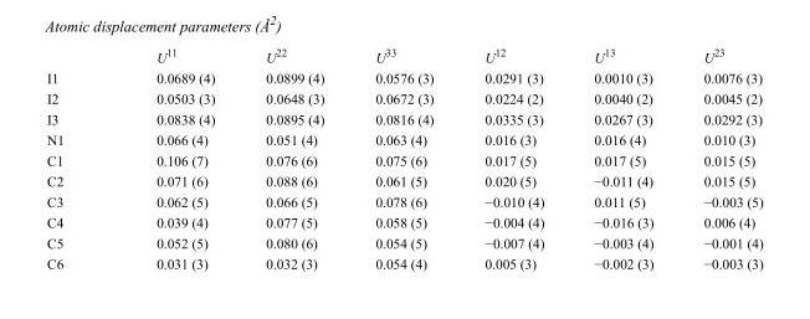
<table><thead><tr><td></td><td>U<sup>11</sup></td><td>U<sup>22</sup></td><td>U<sup>33</sup></td><td>U<sup>12</sup></td><td>U<sup>13</sup></td><td>U<sup>23</sup></td></tr></thead><tbody><tr><td>I1</td><td>0.0689 (4)</td><td>0.0899 (4)</td><td>0.0576 (3)</td><td>0.0291 (3)</td><td>0.0010 (3)</td><td>0.0076 (3)</td></tr><tr><td>I2</td><td>0.0503 (3)</td><td>0.0648 (3)</td><td>0.0672 (3)</td><td>0.0224 (2)</td><td>0.0040 (2)</td><td>0.0045 (2)</td></tr><tr><td>I3</td><td>0.0838 (4)</td><td>0.0895 (4)</td><td>0.0816 (4)</td><td>0.0335 (3)</td><td>0.0267 (3)</td><td>0.0292 (3)</td></tr><tr><td>N1</td><td>0.066 (4)</td><td>0.051 (4)</td><td>0.063 (4)</td><td>0.016 (3)</td><td>0.016 (4)</td><td>0.010 (3)</td></tr><tr><td>C1</td><td>0.106 (7)</td><td>0.076 (6)</td><td>0.075 (6)</td><td>0.017 (5)</td><td>0.017 (5)</td><td>0.015 (5)</td></tr><tr><td>C2</td><td>0.071 (6)</td><td>0.088 (6)</td><td>0.061 (5)</td><td>0.020 (5)</td><td>−0.011 (4)</td><td>0.015 (5)</td></tr><tr><td>C3</td><td>0.062 (5)</td><td>0.066 (5)</td><td>0.078 (6)</td><td>−0.010 (4)</td><td>0.011 (5)</td><td>−0.003 (5)</td></tr><tr><td>C4</td><td>0.039 (4)</td><td>0.077 (5)</td><td>0.058 (5)</td><td>−0.004 (4)</td><td>−0.016 (3)</td><td>0.006 (4)</td></tr><tr><td>C5</td><td>0.052 (5)</td><td>0.080 (6)</td><td>0.054 (5)</td><td>−0.007 (4)</td><td>−0.003 (4)</td><td>−0.001 (4)</td></tr><tr><td>C6</td><td>0.031 (3)</td><td>0.032 (3)</td><td>0.054 (4)</td><td>0.005 (3)</td><td>−0.002 (3)</td><td>−0.003 (3)</td></tr></tbody></table>